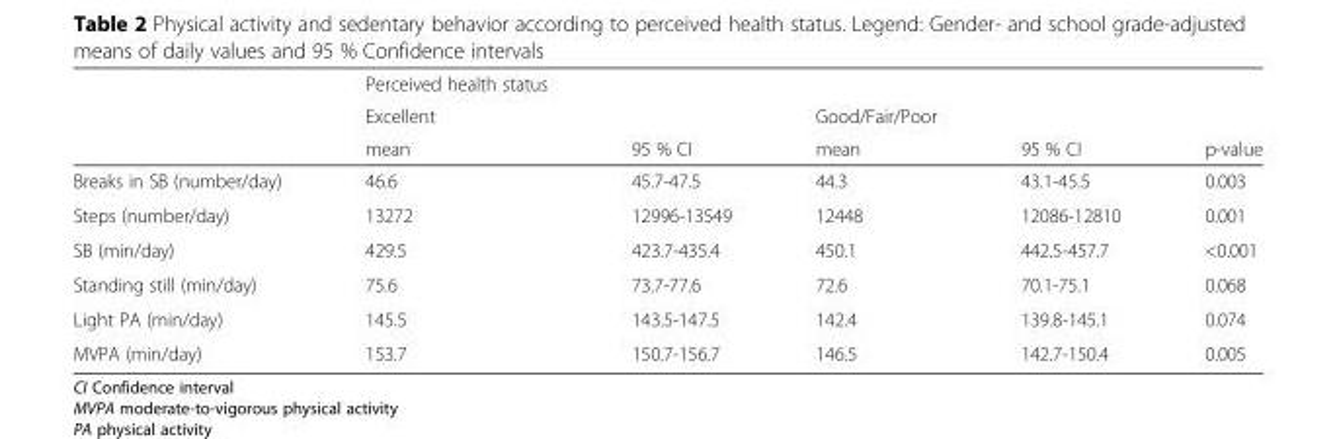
<table><thead><tr><td rowspan="3"></td><td rowspan="3">Perceived health status Excellent mean</td><td rowspan="3">95 % CI</td><td rowspan="3">Good/Fair/Poor mean</td><td rowspan="3">95 % CI</td><td rowspan="3">p-value</td></tr><tr></tr><tr></tr></thead><tbody><tr><td>Breaks in SB (number/day)</td><td>46.6</td><td>45.7-47.5</td><td>44.3</td><td>43.1-45.5</td><td>0.003</td></tr><tr><td>Steps (number/day)</td><td>13272</td><td>12996-13549</td><td>12448</td><td>12086-12810</td><td>0.001</td></tr><tr><td>SB (min/day)</td><td>429.5</td><td>423.7-435.4</td><td>450.1</td><td>442.5-457.7</td><td>&lt;0.001</td></tr><tr><td>Standing still (min/day)</td><td>75.6</td><td>73.7-77.6</td><td>72.6</td><td>70.1-75.1</td><td>0.068</td></tr><tr><td>Light PA (min/day)</td><td>145.5</td><td>143.5-147.5</td><td>142.4</td><td>139.8-145.1</td><td>0.074</td></tr><tr><td>MVPA (min/day)</td><td>153.7</td><td>150.7-156.7</td><td>146.5</td><td>142.7-150.4</td><td>0.005</td></tr></tbody></table>